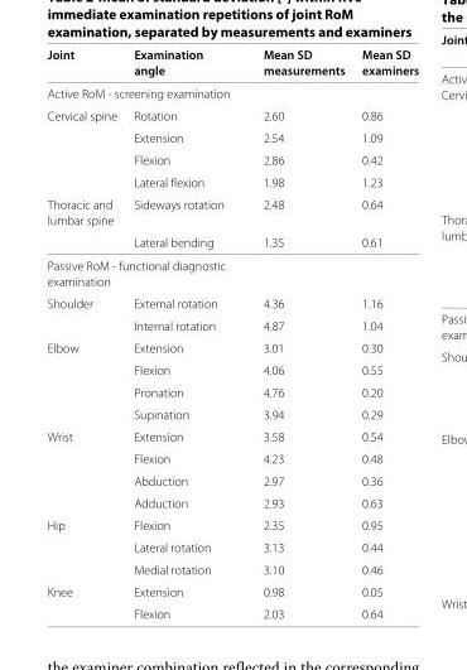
<table><thead><tr><td rowspan="2">Joint</td><td rowspan="2">Examination angle</td><td rowspan="2">Mean SD measurements</td><td rowspan="2">Mean SD examiners</td></tr><tr></tr></thead><tbody><tr><td colspan="4">Active RoM - screening examination</td></tr><tr><td rowspan="4">Cervical spine</td><td>Rotation</td><td>2.60</td><td>0.86</td></tr><tr><td>Extension</td><td>2.54</td><td>1.09</td></tr><tr><td>Flexion</td><td>2.86</td><td>0.42</td></tr><tr><td>Lateral flexion</td><td>1.98</td><td>1.23</td></tr><tr><td>Thoracic and</td><td>Sideways rotation</td><td>2.48</td><td>0.64</td></tr><tr><td colspan="4">lumbar spine</td></tr><tr><td></td><td>Lateral bending</td><td>1.35</td><td>0.61</td></tr><tr><td colspan="4">Passive RoM - functional diagnostic</td></tr><tr><td colspan="4">examination</td></tr><tr><td rowspan="2">Shoulder</td><td>External rotation</td><td>4.36</td><td>1.16</td></tr><tr><td>Internal rotation</td><td>4.87</td><td>1.04</td></tr><tr><td rowspan="4">Elbow</td><td>Extension</td><td>3.01</td><td>0.30</td></tr><tr><td>Flexion</td><td>4.06</td><td>0.55</td></tr><tr><td>Pronation</td><td>4.76</td><td>0.20</td></tr><tr><td>Supination</td><td>3.94</td><td>0.29</td></tr><tr><td rowspan="4">Wrist</td><td>Extension</td><td>3.58</td><td>0.54</td></tr><tr><td>Flexion</td><td>4.23</td><td>0.48</td></tr><tr><td>Abduction</td><td>2.97</td><td>0.36</td></tr><tr><td>Adduction</td><td>2.93</td><td>0.63</td></tr><tr><td rowspan="3">Hip</td><td>Flexion</td><td>2.35</td><td>0.95</td></tr><tr><td>Lateral rotation</td><td>3.13</td><td>0.44</td></tr><tr><td>Medial rotation</td><td>3.10</td><td>0.46</td></tr><tr><td rowspan="2">Knee</td><td>Extension</td><td>0.98</td><td>0.05</td></tr><tr><td>Flexion</td><td>2.03</td><td>0.64</td></tr></tbody></table>